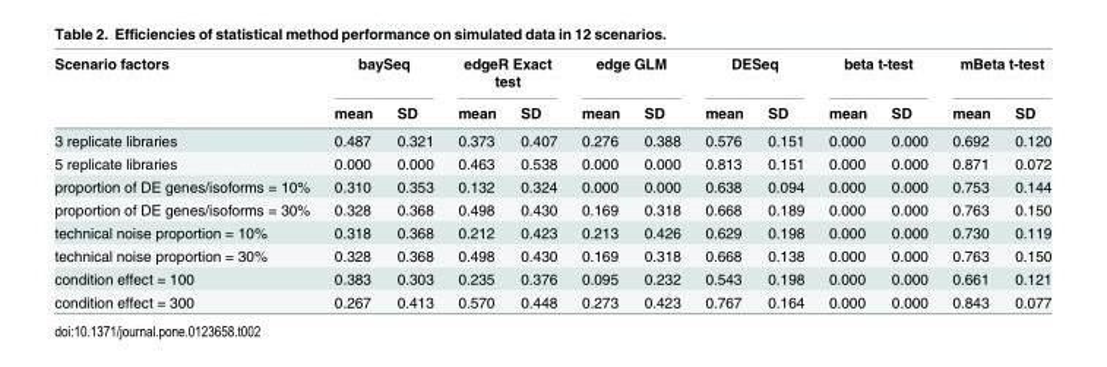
<table><thead><tr><td rowspan="2">Scenario factors</td><td colspan="2">baySeq</td><td colspan="2">edgeR Exact test</td><td colspan="2">edge GLM</td><td colspan="2">DESeq</td><td colspan="2">beta t-test</td><td colspan="2">mBeta t-test</td></tr><tr><td>mean</td><td>SD</td><td>mean</td><td>SD</td><td>mean</td><td>SD</td><td>mean</td><td>SD</td><td>mean</td><td>SD</td><td>mean</td><td>SD</td></tr></thead><tbody><tr><td>3 replicate libraries</td><td>0.487</td><td>0.321</td><td>0.373</td><td>0.407</td><td>0.276</td><td>0.388</td><td>0.576</td><td>0.151</td><td>0.000</td><td>0.000</td><td>0.692</td><td>0.120</td></tr><tr><td>5 replicate libraries</td><td>0.000</td><td>0.000</td><td>0.463</td><td>0.538</td><td>0.000</td><td>0.000</td><td>0.813</td><td>0.151</td><td>0.000</td><td>0.000</td><td>0.871</td><td>0.072</td></tr><tr><td>proportion of DE genes/isoforms = 10%</td><td>0.310</td><td>0.353</td><td>0.132</td><td>0.324</td><td>0.000</td><td>0.000</td><td>0.638</td><td>0.094</td><td>0.000</td><td>0.000</td><td>0.753</td><td>0.144</td></tr><tr><td>proportion of DE genes/isoforms = 30%</td><td>0.328</td><td>0.368</td><td>0.498</td><td>0.430</td><td>0.169</td><td>0.318</td><td>0.668</td><td>0.189</td><td>0.000</td><td>0.000</td><td>0.763</td><td>0.150</td></tr><tr><td>technical noise proportion = 10%</td><td>0.318</td><td>0.368</td><td>0.212</td><td>0.423</td><td>0.213</td><td>0.426</td><td>0.629</td><td>0.198</td><td>0.000</td><td>0.000</td><td>0.730</td><td>0.119</td></tr><tr><td>technical noise proportion = 30%</td><td>0.328</td><td>0.368</td><td>0.498</td><td>0.430</td><td>0.169</td><td>0.318</td><td>0.668</td><td>0.138</td><td>0.000</td><td>0.000</td><td>0.763</td><td>0.150</td></tr><tr><td>condition effect = 100</td><td>0.383</td><td>0.303</td><td>0.235</td><td>0.376</td><td>0.095</td><td>0.232</td><td>0.543</td><td>0.198</td><td>0.000</td><td>0.000</td><td>0.661</td><td>0.121</td></tr><tr><td>condition effect = 300</td><td>0.267</td><td>0.413</td><td>0.570</td><td>0.448</td><td>0.273</td><td>0.423</td><td>0.767</td><td>0.164</td><td>0.000</td><td>0.000</td><td>0.843</td><td>0.077</td></tr></tbody></table>